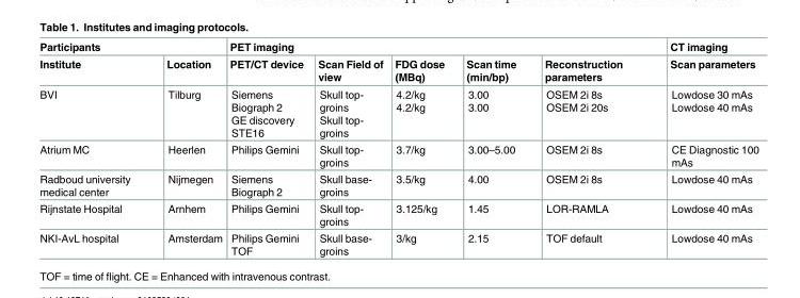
<table><thead><tr><td colspan="2">Participants</td><td colspan="5">PET imaging</td><td rowspan="2">CT imaging Scan parameters</td></tr><tr><td>Institute</td><td>Location</td><td>PET/CT device</td><td>Scan Field of view</td><td>FDG dose (MBq)</td><td>Scan time (min/bp)</td><td>Reconstruction parameters</td></tr></thead><tbody><tr><td>BVI</td><td>Tilburg</td><td>Siemens Biograph 2 GE discovery STE16</td><td>Skull top- groins Skull top- groins</td><td>4.2/kg 4.2/kg</td><td>3.00 3.00</td><td>OSEM 2i 8s OSEM 2i 20s</td><td>Lowdose 30 mAs Lowdose 40 mAs</td></tr><tr><td>Atrium MC</td><td>Heerlen</td><td>Philips Gemini</td><td>Skull top- groins</td><td>3.7/kg</td><td>3.00–5.00</td><td>OSEM 2i 8s</td><td>CE Diagnostic 100 mAs</td></tr><tr><td>Radboud university medical center</td><td>Nijmegen</td><td>Siemens Biograph 2</td><td>Skull base- groins</td><td>3.5/kg</td><td>4.00</td><td>OSEM 2i 8s</td><td>Lowdose 40 mAs</td></tr><tr><td>Rijnstate Hospital</td><td>Arnhem</td><td>Philips Gemini</td><td>Skull top- groins</td><td>3.125/kg</td><td>1.45</td><td>LOR-RAMLA</td><td>Lowdose 40 mAs</td></tr><tr><td>NKI-AvL hospital</td><td>Amsterdam</td><td>Philips Gemini TOF</td><td>Skull base- groins</td><td>3/kg</td><td>2.15</td><td>TOF default</td><td>Lowdose 40 mAs</td></tr></tbody></table>